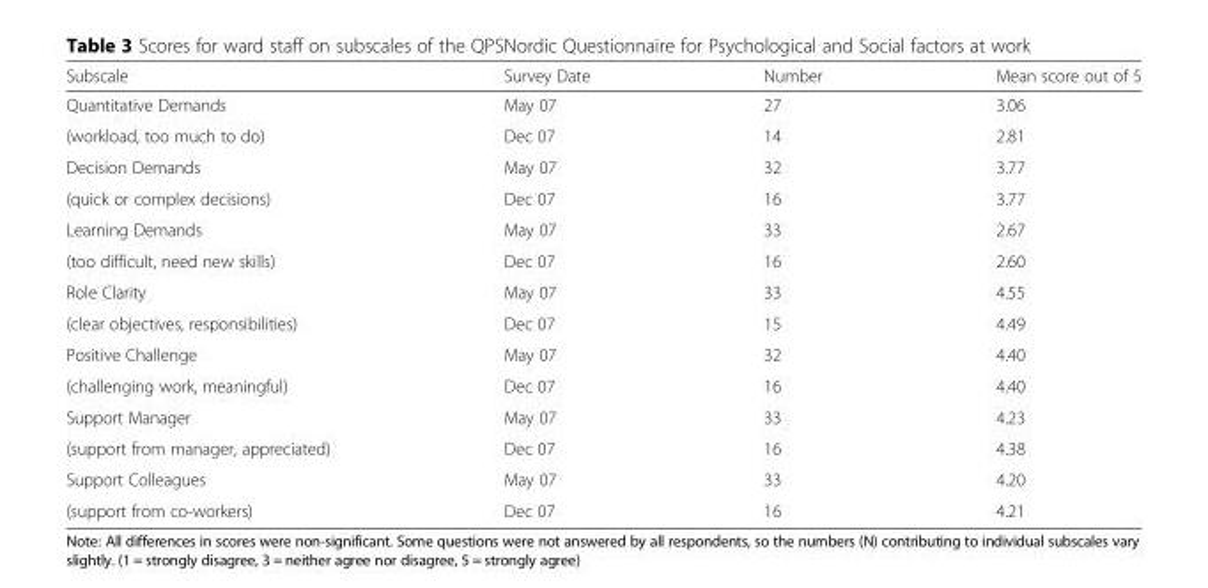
<table><thead><tr><td>Subscale</td><td>Survey Date</td><td>Number</td><td>Mean score out of 5</td></tr></thead><tbody><tr><td>Quantitative Demands</td><td>May 07</td><td>27</td><td>3.06</td></tr><tr><td>(workload, too much to do)</td><td>Dec 07</td><td>14</td><td>2.81</td></tr><tr><td>Decision Demands</td><td>May 07</td><td>32</td><td>3.77</td></tr><tr><td>(quick or complex decisions)</td><td>Dec 07</td><td>16</td><td>3.77</td></tr><tr><td>Learning Demands</td><td>May 07</td><td>33</td><td>2.67</td></tr><tr><td>(too difficult, need new skills)</td><td>Dec 07</td><td>16</td><td>2.60</td></tr><tr><td>Role Clarity</td><td>May 07</td><td>33</td><td>4.55</td></tr><tr><td>(clear objectives, responsibilities)</td><td>Dec 07</td><td>15</td><td>4.49</td></tr><tr><td>Positive Challenge</td><td>May 07</td><td>32</td><td>4.40</td></tr><tr><td>(challenging work, meaningful)</td><td>Dec 07</td><td>16</td><td>4.40</td></tr><tr><td>Support Manager</td><td>May 07</td><td>33</td><td>4.23</td></tr><tr><td>(support from manager, appreciated)</td><td>Dec 07</td><td>16</td><td>4.38</td></tr><tr><td>Support Colleagues</td><td>May 07</td><td>33</td><td>4.20</td></tr><tr><td>(support from co-workers)</td><td>Dec 07</td><td>16</td><td>4.21</td></tr></tbody></table>